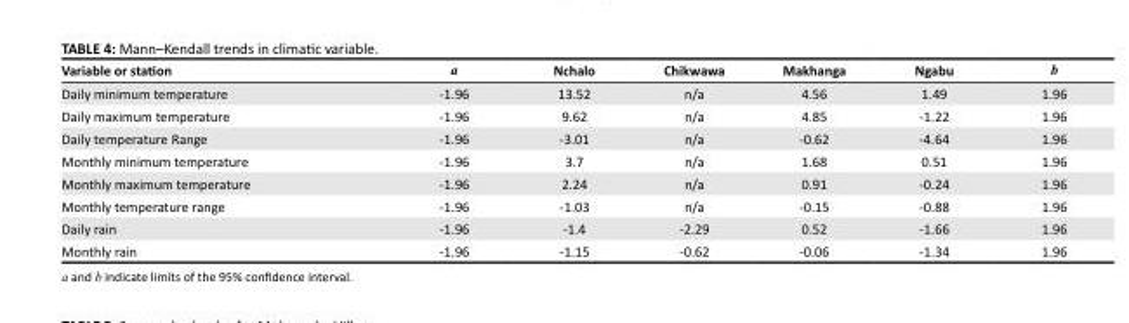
<table><thead><tr><td>Variable or station</td><td>a</td><td>Nchalo</td><td>Chikwawa</td><td>Makhanga</td><td>Ngabu</td><td>b</td></tr></thead><tbody><tr><td>Daily minimum temperature</td><td>-1.96</td><td>13.52</td><td>n/a</td><td>4.56</td><td>1.49</td><td>1.96</td></tr><tr><td>Daily maximum temperature</td><td>-1.96</td><td>9.62</td><td>n/a</td><td>4.85</td><td>-1.22</td><td>1.96</td></tr><tr><td>Daily temperature Range</td><td>-1.96</td><td>-3.01</td><td>n/a</td><td>-0.62</td><td>-4.64</td><td>1.96</td></tr><tr><td>Monthly minimum temperature</td><td>-1.96</td><td>3.7</td><td>n/a</td><td>1.68</td><td>0.51</td><td>1.96</td></tr><tr><td>Monthly maximum temperature</td><td>-1.96</td><td>2.24</td><td>n/a</td><td>0.91</td><td>-0.24</td><td>1.96</td></tr><tr><td>Monthly temperature range</td><td>-1.96</td><td>-1.03</td><td>n/a</td><td>-0.15</td><td>-0.88</td><td>1.96</td></tr><tr><td>Daily rain</td><td>-1.96</td><td>-1.4</td><td>-2.29</td><td>0.52</td><td>-1.66</td><td>1.96</td></tr><tr><td>Monthly rain</td><td>-1.96</td><td>-1.15</td><td>-0.62</td><td>-0.06</td><td>-1.34</td><td>1.96</td></tr></tbody></table>